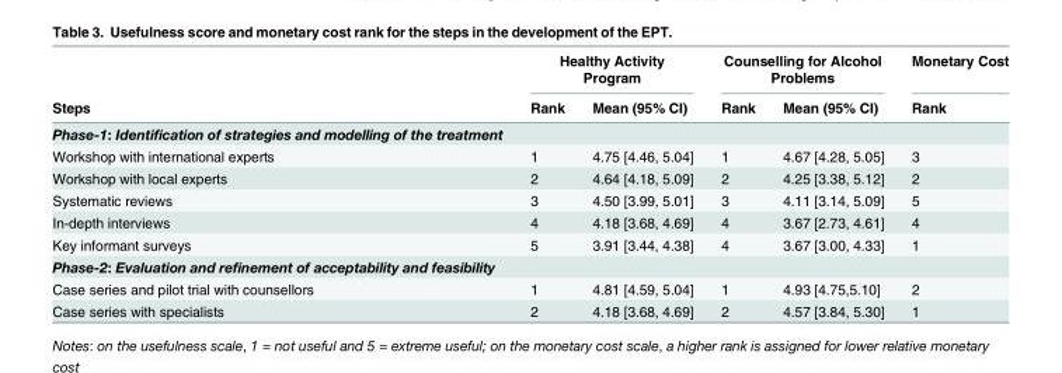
<table><thead><tr><td rowspan="2">Steps</td><td colspan="2">Healthy Activity Program</td><td colspan="2">Counselling for Alcohol Problems</td><td rowspan="2">Monetary Cost Rank</td></tr><tr><td>Rank</td><td>Mean (95% CI)</td><td>Rank</td><td>Mean (95% CI)</td></tr></thead><tbody><tr><td colspan="6">Phase-1: Identification of strategies and modelling of the treatment</td></tr><tr><td>Workshop with international experts</td><td>1</td><td>4.75 [4.46, 5.04]</td><td>1</td><td>4.67 [4.28, 5.05]</td><td>3</td></tr><tr><td>Workshop with local experts</td><td>2</td><td>4.64 [4.18, 5.09]</td><td>2</td><td>4.25 [3.38, 5.12]</td><td>2</td></tr><tr><td>Systematic reviews</td><td>3</td><td>4.50 [3.99, 5.01]</td><td>3</td><td>4.11 [3.14, 5.09]</td><td>5</td></tr><tr><td>In-depth interviews</td><td>4</td><td>4.18 [3.68, 4.69]</td><td>4</td><td>3.67 [2.73, 4.61]</td><td>4</td></tr><tr><td>Key informant surveys</td><td>5</td><td>3.91 [3.44, 4.38]</td><td>4</td><td>3.67 [3.00, 4.33]</td><td>1</td></tr><tr><td colspan="6">Phase-2: Evaluation and refinement of acceptability and feasibility</td></tr><tr><td>Case series and pilot trial with counsellors</td><td>1</td><td>4.81 [4.59, 5.04]</td><td>1</td><td>4.93 [4.75,5.10]</td><td>2</td></tr><tr><td>Case series with specialists</td><td>2</td><td>4.18 [3.68, 4.69]</td><td>2</td><td>4.57 [3.84, 5.30]</td><td>1</td></tr></tbody></table>